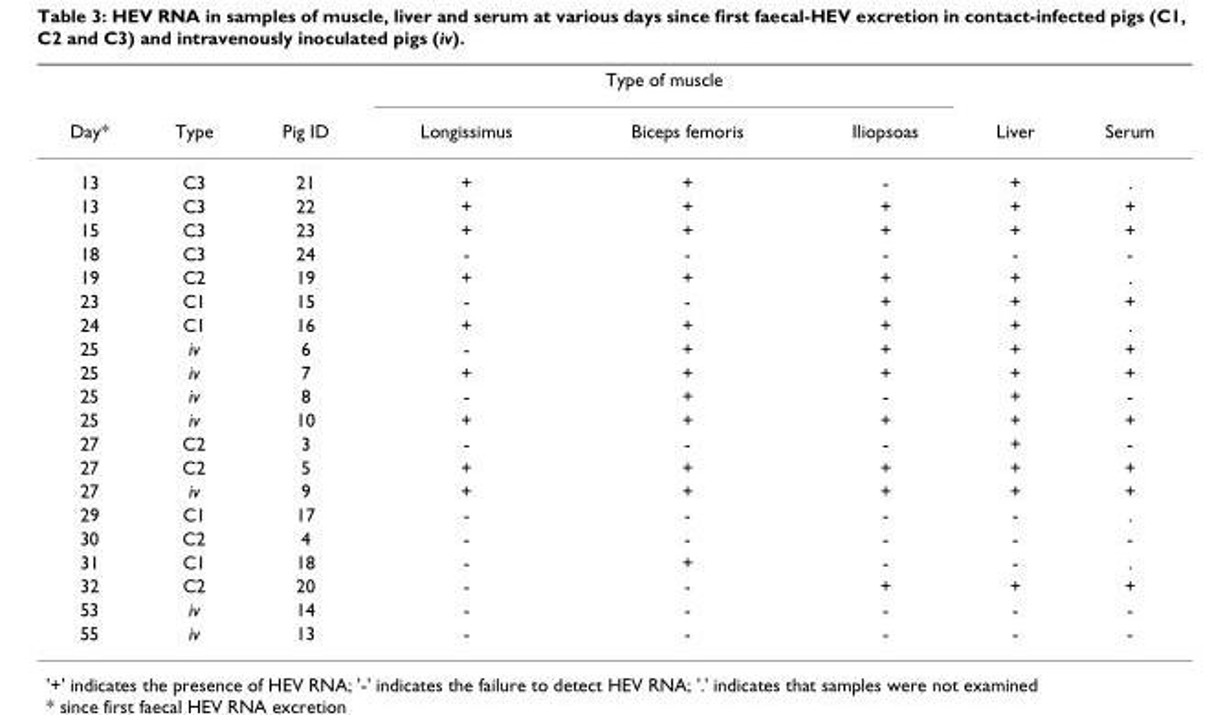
<table><thead><tr><td rowspan="2">Day*</td><td rowspan="2">Type</td><td rowspan="2">Pig ID</td><td colspan="3">Type of muscle</td><td rowspan="2">Liver</td><td rowspan="2">Serum</td></tr><tr><td>Longissimus</td><td>Biceps femoris</td><td>Iliopsoas</td></tr></thead><tbody><tr><td>13</td><td>C3</td><td>21</td><td>+</td><td>+</td><td>-</td><td>+</td><td>.</td></tr><tr><td>13</td><td>C3</td><td>22</td><td>+</td><td>+</td><td>+</td><td>+</td><td>+</td></tr><tr><td>15</td><td>C3</td><td>23</td><td>+</td><td>+</td><td>+</td><td>+</td><td>+</td></tr><tr><td>18</td><td>C3</td><td>24</td><td>-</td><td>-</td><td>-</td><td>-</td><td>-</td></tr><tr><td>19</td><td>C2</td><td>19</td><td>+</td><td>+</td><td>+</td><td>+</td><td>.</td></tr><tr><td>23</td><td>C1</td><td>15</td><td>-</td><td>-</td><td>+</td><td>+</td><td>+</td></tr><tr><td>24</td><td>C1</td><td>16</td><td>+</td><td>+</td><td>+</td><td>+</td><td>.</td></tr><tr><td>25</td><td>iv</td><td>6</td><td>-</td><td>+</td><td>+</td><td>+</td><td>+</td></tr><tr><td>25</td><td>iv</td><td>7</td><td>+</td><td>+</td><td>+</td><td>+</td><td>+</td></tr><tr><td>25</td><td>iv</td><td>8</td><td>-</td><td>+</td><td>-</td><td>+</td><td>-</td></tr><tr><td>25</td><td>iv</td><td>10</td><td>+</td><td>+</td><td>+</td><td>+</td><td>+</td></tr><tr><td>27</td><td>C2</td><td>3</td><td>-</td><td>-</td><td>-</td><td>+</td><td>-</td></tr><tr><td>27</td><td>C2</td><td>5</td><td>+</td><td>+</td><td>+</td><td>+</td><td>+</td></tr><tr><td>27</td><td>iv</td><td>9</td><td>+</td><td>+</td><td>+</td><td>+</td><td>+</td></tr><tr><td>29</td><td>C1</td><td>17</td><td>-</td><td>-</td><td>-</td><td>-</td><td>.</td></tr><tr><td>30</td><td>C2</td><td>4</td><td>-</td><td>-</td><td>-</td><td>-</td><td>-</td></tr><tr><td>31</td><td>C1</td><td>18</td><td>-</td><td>+</td><td>-</td><td>-</td><td>.</td></tr><tr><td>32</td><td>C2</td><td>20</td><td>-</td><td>-</td><td>+</td><td>+</td><td>+</td></tr><tr><td>53</td><td>iv</td><td>14</td><td>-</td><td>-</td><td>-</td><td>-</td><td>-</td></tr><tr><td>55</td><td>iv</td><td>13</td><td>-</td><td>-</td><td>-</td><td>-</td><td>-</td></tr></tbody></table>